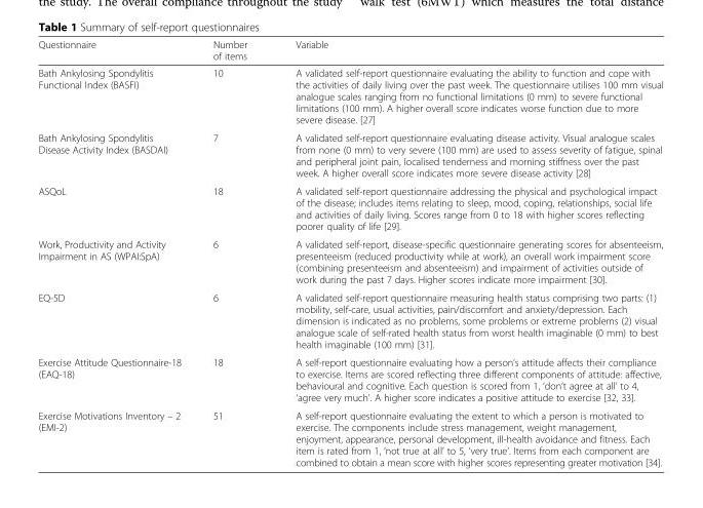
<table><thead><tr><td>Questionnaire</td><td>Number of items</td><td>Variable</td></tr></thead><tbody><tr><td>Bath Ankylosing Spondylitis Functional Index (BASFI)</td><td>10</td><td>A validated self-report questionnaire evaluating the ability to function and cope with the activities of daily living over the past week. The questionnaire utilises 100 mm visual analogue scales ranging from no functional limitations (0 mm) to severe functional limitations (100 mm). A higher overall score indicates worse function due to more severe disease. [27]</td></tr><tr><td>Bath Ankylosing Spondylitis Disease Activity Index (BASDAI)</td><td>7</td><td>A validated self-report questionnaire evaluating disease activity. Visual analogue scales from none (0 mm) to very severe (100 mm) are used to assess severity of fatigue, spinal and peripheral joint pain, localised tenderness and morning stiffness over the past week. A higher overall score indicates more severe disease activity [28]</td></tr><tr><td>ASQoL</td><td>18</td><td>A validated self-report questionnaire addressing the physical and psychological impact of the disease; includes items relating to sleep, mood, coping, relationships, social life and activities of daily living. Scores range from 0 to 18 with higher scores reflecting poorer quality of life [29].</td></tr><tr><td>Work, Productivity and Activity Impairment in AS (WPAI:SpA)</td><td>6</td><td>A validated self-report, disease-specific questionnaire generating scores for absenteeism, presenteeism (reduced productivity while at work), an overall work impairment score (combining presenteeism and absenteeism) and impairment of activities outside of work during the past 7 days. Higher scores indicate more impairment [30].</td></tr><tr><td>EQ-5D</td><td>6</td><td>A validated self-report questionnaire measuring health status comprising two parts: (1) mobility, self-care, usual activities, pain/discomfort and anxiety/depression. Each dimension is indicated as no problems, some problems or extreme problems (2) visual analogue scale of self-rated health status from worst health imaginable (0 mm) to best health imaginable (100 mm) [31].</td></tr><tr><td>Exercise Attitude Questionnaire-18 (EAQ-18)</td><td>18</td><td>A self-report questionnaire evaluating how a person’s attitude affects their compliance to exercise. Items are scored reflecting three different components of attitude: affective, behavioural and cognitive. Each question is scored from 1, ‘don’t agree at all’ to 4, ‘agree very much’. A higher score indicates a positive attitude to exercise [32, 33].</td></tr><tr><td>Exercise Motivations Inventory – 2 (EMI-2)</td><td>51</td><td>A self-report questionnaire evaluating the extent to which a person is motivated to exercise. The components include stress management, weight management, enjoyment, appearance, personal development, ill-health avoidance and fitness. Each item is rated from 1, ‘not true at all’ to 5, ‘very true’. Items from each component are combined to obtain a mean score with higher scores representing greater motivation [34].</td></tr></tbody></table>